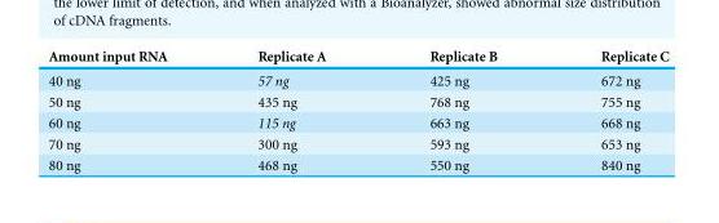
<table><thead><tr><td>Amount input RNA</td><td>Replicate A</td><td>Replicate B</td><td>Replicate C</td></tr></thead><tbody><tr><td>40 ng</td><td>57 ng</td><td>425 ng</td><td>672 ng</td></tr><tr><td>50 ng</td><td>435 ng</td><td>768 ng</td><td>755 ng</td></tr><tr><td>60 ng</td><td>115 ng</td><td>663 ng</td><td>668 ng</td></tr><tr><td>70 ng</td><td>300 ng</td><td>593 ng</td><td>653 ng</td></tr><tr><td>80 ng</td><td>468 ng</td><td>550 ng</td><td>840 ng</td></tr></tbody></table>